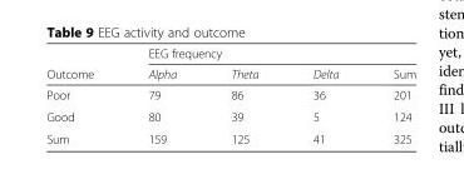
<table><thead><tr><td rowspan="2">Outcome</td><td colspan="4">EEG frequency</td></tr><tr><td>Alpha</td><td>Theta</td><td>Delta</td><td>Sum</td></tr></thead><tbody><tr><td>Poor</td><td>79</td><td>86</td><td>36</td><td>201</td></tr><tr><td>Good</td><td>80</td><td>39</td><td>5</td><td>124</td></tr><tr><td>Sum</td><td>159</td><td>125</td><td>41</td><td>325</td></tr></tbody></table>